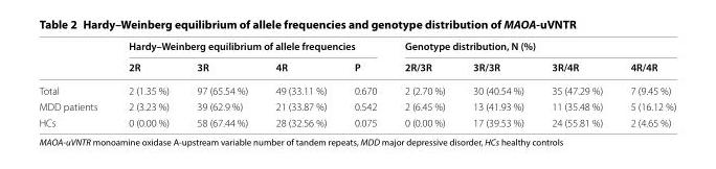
<table><thead><tr><td rowspan="2"></td><td colspan="4">Hardy–Weinberg equilibrium of allele frequencies</td><td colspan="4">Genotype distribution, N (%)</td></tr><tr><td>2R</td><td>3R</td><td>4R</td><td>P</td><td>2R/3R</td><td>3R/3R</td><td>3R/4R</td><td>4R/4R</td></tr></thead><tbody><tr><td>Total</td><td>2 (1.35 %)</td><td>97 (65.54 %)</td><td>49 (33.11 %)</td><td>0.670</td><td>2 (2.70 %)</td><td>30 (40.54 %)</td><td>35 (47.29 %)</td><td>7 (9.45 %)</td></tr><tr><td>MDD patients</td><td>2 (3.23 %)</td><td>39 (62.9 %)</td><td>21 (33.87 %)</td><td>0.542</td><td>2 (6.45 %)</td><td>13 (41.93 %)</td><td>11 (35.48 %)</td><td>5 (16.12 %)</td></tr><tr><td>HCs</td><td>0 (0.00 %)</td><td>58 (67.44 %)</td><td>28 (32.56 %)</td><td>0.075</td><td>0 (0.00 %)</td><td>17 (39.53 %)</td><td>24 (55.81 %)</td><td>2 (4.65 %)</td></tr></tbody></table>